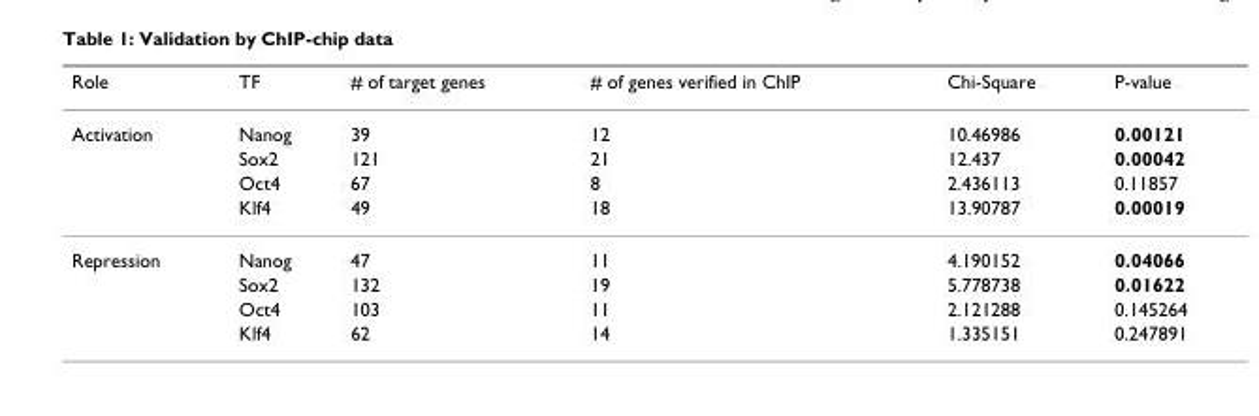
<table><thead><tr><td>Role</td><td>TF</td><td># of target genes</td><td># of genes verified in ChIP</td><td>Chi-Square</td><td>P-value</td></tr></thead><tbody><tr><td rowspan="4">Activation</td><td>Nanog</td><td>39</td><td>12</td><td>10.46986</td><td>0.00121</td></tr><tr><td>Sox2</td><td>121</td><td>21</td><td>12.437</td><td>0.00042</td></tr><tr><td>Oct4</td><td>67</td><td>8</td><td>2.436113</td><td>0.11857</td></tr><tr><td>Klf4</td><td>49</td><td>18</td><td>13.90787</td><td>0.00019</td></tr><tr><td rowspan="4">Repression</td><td>Nanog</td><td>47</td><td>11</td><td>4.190152</td><td>0.04066</td></tr><tr><td>Sox2</td><td>132</td><td>19</td><td>5.778738</td><td>0.01622</td></tr><tr><td>Oct4</td><td>103</td><td>11</td><td>2.121288</td><td>0.145264</td></tr><tr><td>Klf4</td><td>62</td><td>14</td><td>1.335151</td><td>0.247891</td></tr></tbody></table>